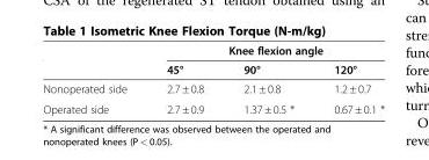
<table><thead><tr><td rowspan="2"></td><td colspan="3">Knee flexion angle</td></tr><tr><td>45°</td><td>90°</td><td>120°</td></tr></thead><tbody><tr><td>Nonoperated side</td><td>2.7 ± 0.8</td><td>2.1 ± 0.8</td><td>1.2 ± 0.7</td></tr><tr><td>Operated side</td><td>2.7 ± 0.9</td><td>1.37 ± 0.5 *</td><td>0.67 ± 0.1 *</td></tr></tbody></table>